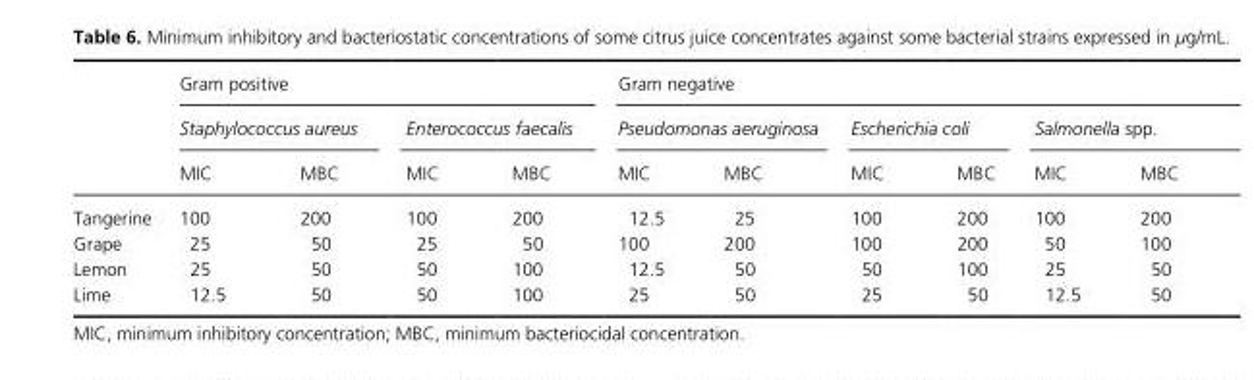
<table><thead><tr><td rowspan="3"></td><td colspan="4">Gram positive</td><td colspan="6">Gram negative</td></tr><tr><td colspan="2">Staphylococcus aureus</td><td colspan="2">Enterococcus faecalis</td><td colspan="2">Pseudomonas aeruginosa</td><td colspan="2">Escherichia coli</td><td colspan="2">Salmonella spp.</td></tr><tr><td>MIC</td><td>MBC</td><td>MIC</td><td>MBC</td><td>MIC</td><td>MBC</td><td>MIC</td><td>MBC</td><td>MIC</td><td>MBC</td></tr></thead><tbody><tr><td>Tangerine</td><td>100</td><td>200</td><td>100</td><td>200</td><td>12.5</td><td>25</td><td>100</td><td>200</td><td>100</td><td>200</td></tr><tr><td>Grape</td><td>25</td><td>50</td><td>25</td><td>50</td><td>100</td><td>200</td><td>100</td><td>200</td><td>50</td><td>100</td></tr><tr><td>Lemon</td><td>25</td><td>50</td><td>50</td><td>100</td><td>12.5</td><td>50</td><td>50</td><td>100</td><td>25</td><td>50</td></tr><tr><td>Lime</td><td>12.5</td><td>50</td><td>50</td><td>100</td><td>25</td><td>50</td><td>25</td><td>50</td><td>12.5</td><td>50</td></tr></tbody></table>